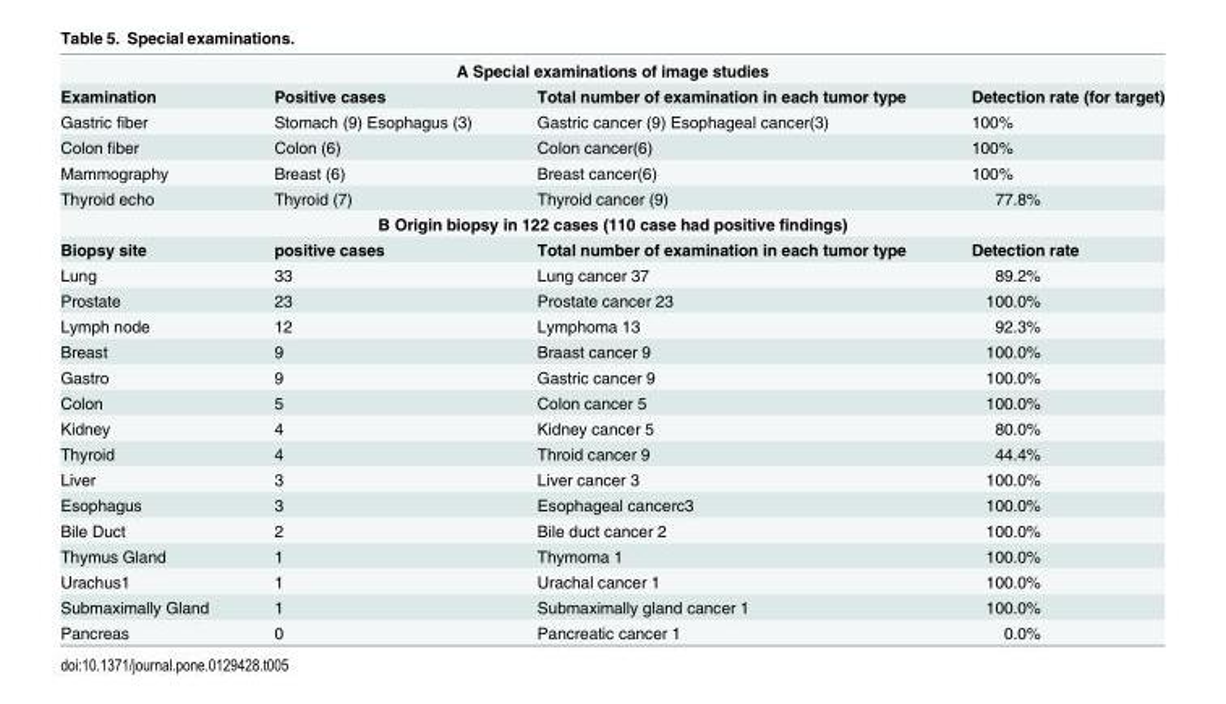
<table><tbody><tr><td colspan="4">A Special examinations of image studies</td></tr><tr><td>Examination</td><td>Positive cases</td><td>Total number of examination in each tumor type</td><td>Detection rate (for target)</td></tr><tr><td>Gastric fiber</td><td>Stomach (9) Esophagus (3)</td><td>Gastric cancer (9) Esophageal cancer(3)</td><td>100%</td></tr><tr><td>Colon fiber</td><td>Colon (6)</td><td>Colon cancer(6)</td><td>100%</td></tr><tr><td>Mammography</td><td>Breast (6)</td><td>Breast cancer(6)</td><td>100%</td></tr><tr><td>Thyroid echo</td><td>Thyroid (7)</td><td>Thyroid cancer (9)</td><td>77.8%</td></tr><tr><td colspan="4">B Origin biopsy in 122 cases (110 case had positive findings)</td></tr><tr><td>Biopsy site</td><td>positive cases</td><td>Total number of examination in each tumor type</td><td>Detection rate</td></tr><tr><td>Lung</td><td>33</td><td>Lung cancer 37</td><td>89.2%</td></tr><tr><td>Prostate</td><td>23</td><td>Prostate cancer 23</td><td>100.0%</td></tr><tr><td>Lymph node</td><td>12</td><td>Lymphoma 13</td><td>92.3%</td></tr><tr><td>Breast</td><td>9</td><td>Braast cancer 9</td><td>100.0%</td></tr><tr><td>Gastro</td><td>9</td><td>Gastric cancer 9</td><td>100.0%</td></tr><tr><td>Colon</td><td>5</td><td>Colon cancer 5</td><td>100.0%</td></tr><tr><td>Kidney</td><td>4</td><td>Kidney cancer 5</td><td>80.0%</td></tr><tr><td>Thyroid</td><td>4</td><td>Throid cancer 9</td><td>44.4%</td></tr><tr><td>Liver</td><td>3</td><td>Liver cancer 3</td><td>100.0%</td></tr><tr><td>Esophagus</td><td>3</td><td>Esophageal cancerc3</td><td>100.0%</td></tr><tr><td>Bile Duct</td><td>2</td><td>Bile duct cancer 2</td><td>100.0%</td></tr><tr><td>Thymus Gland</td><td>1</td><td>Thymoma 1</td><td>100.0%</td></tr><tr><td>Urachus1</td><td>1</td><td>Urachal cancer 1</td><td>100.0%</td></tr><tr><td>Submaximally Gland</td><td>1</td><td>Submaximally gland cancer 1</td><td>100.0%</td></tr><tr><td>Pancreas</td><td>0</td><td>Pancreatic cancer 1</td><td>0.0%</td></tr></tbody></table>